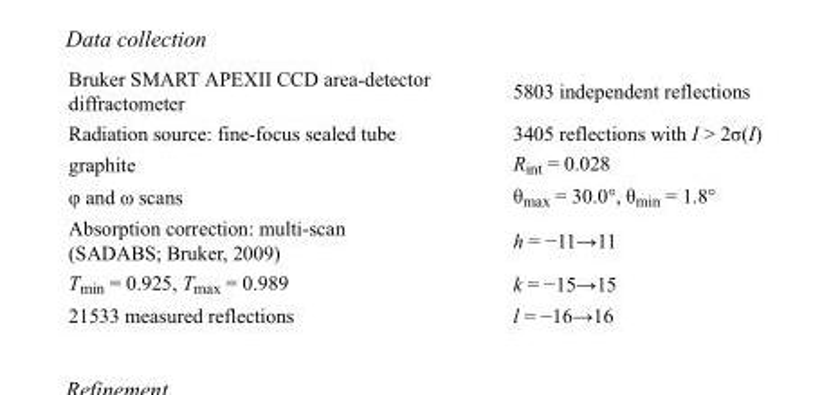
<table><tbody><tr><td>Bruker SMART APEXII CCD area-detector diffractometer</td><td>5803 independent reflections</td></tr><tr><td>Radiation source: fine-focus sealed tube</td><td>3405 reflections with I &gt; 2σ(I)</td></tr><tr><td>graphite</td><td>R<sub>int</sub> = 0.028</td></tr><tr><td>φ and ω scans</td><td>θ<sub>max</sub> = 30.0°, θ<sub>min</sub> = 1.8°</td></tr><tr><td>Absorption correction: multi-scan (SADABS; Bruker, 2009)</td><td>h = −11→11</td></tr><tr><td>T<sub>min</sub> = 0.925, T<sub>max</sub> = 0.989</td><td>k = −15→15</td></tr><tr><td>21533 measured reflections</td><td>l = −16→16</td></tr></tbody></table>